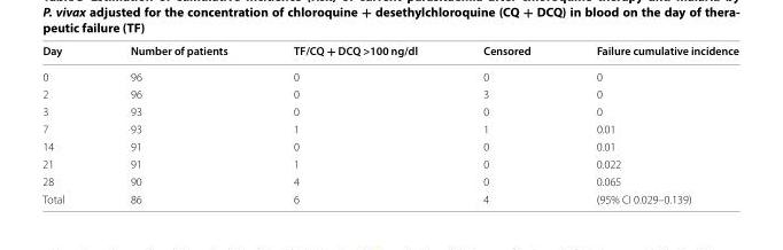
<table><thead><tr><td>Day</td><td>Number of patients</td><td>TF/CQ + DCQ &gt;100 ng/dl</td><td>Censored</td><td>Failure cumulative incidence</td></tr></thead><tbody><tr><td>0</td><td>96</td><td>0</td><td>0</td><td>0</td></tr><tr><td>2</td><td>96</td><td>0</td><td>3</td><td>0</td></tr><tr><td>3</td><td>93</td><td>0</td><td>0</td><td>0</td></tr><tr><td>7</td><td>93</td><td>1</td><td>1</td><td>0.01</td></tr><tr><td>14</td><td>91</td><td>0</td><td>0</td><td>0.01</td></tr><tr><td>21</td><td>91</td><td>1</td><td>0</td><td>0.022</td></tr><tr><td>28</td><td>90</td><td>4</td><td>0</td><td>0.065</td></tr><tr><td>Total</td><td>86</td><td>6</td><td>4</td><td>(95% CI 0.029–0.139)</td></tr></tbody></table>